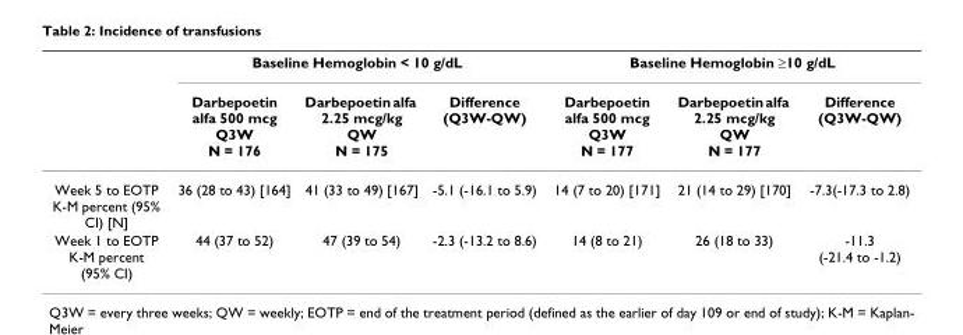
<table><thead><tr><td rowspan="2"></td><td colspan="3">Baseline Hemoglobin &lt; 10 g/dL</td><td colspan="3">Baseline Hemoglobin ≥10 g/dL</td></tr><tr><td>Darbepoetin alfa 500 mcg Q3W N = 176</td><td>Darbepoetin alfa 2.25 mcg/kg QW N = 175</td><td>Difference (Q3W-QW)</td><td>Darbepoetin alfa 500 mcg Q3W N = 177</td><td>Darbepoetin alfa 2.25 mcg/kg QW N = 177</td><td>Difference (Q3W-QW)</td></tr></thead><tbody><tr><td>Week 5 to EOTP K-M percent (95% CI) [N]</td><td>36 (28 to 43) [164]</td><td>41 (33 to 49) [167]</td><td>-5.1 (-16.1 to 5.9)</td><td>14 (7 to 20) [171]</td><td>21 (14 to 29) [170]</td><td>-7.3(-17.3 to 2.8)</td></tr><tr><td>Week 1 to EOTP K-M percent (95% CI)</td><td>44 (37 to 52)</td><td>47 (39 to 54)</td><td>-2.3 (-13.2 to 8.6)</td><td>14 (8 to 21)</td><td>26 (18 to 33)</td><td>-11.3 (-21.4 to -1.2)</td></tr></tbody></table>